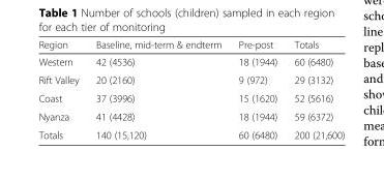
<table><thead><tr><td>Region</td><td>Baseline, mid-term &amp; endterm</td><td>Pre-post</td><td>Totals</td></tr></thead><tbody><tr><td>Western</td><td>42 (4536)</td><td>18 (1944)</td><td>60 (6480)</td></tr><tr><td>Rift Valley</td><td>20 (2160)</td><td>9 (972)</td><td>29 (3132)</td></tr><tr><td>Coast</td><td>37 (3996)</td><td>15 (1620)</td><td>52 (5616)</td></tr><tr><td>Nyanza</td><td>41 (4428)</td><td>18 (1944)</td><td>59 (6372)</td></tr><tr><td>Totals</td><td>140 (15,120)</td><td>60 (6480)</td><td>200 (21,600)</td></tr></tbody></table>